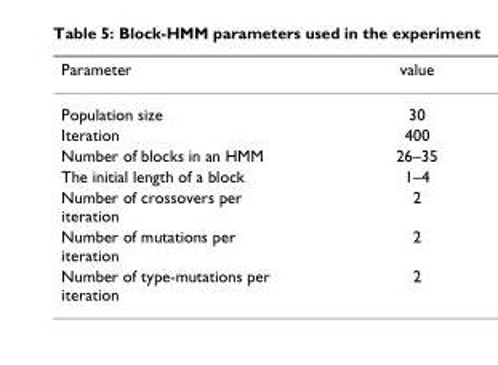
<table><thead><tr><td>Parameter</td><td>value</td></tr></thead><tbody><tr><td>Population size</td><td>30</td></tr><tr><td>Iteration</td><td>400</td></tr><tr><td>Number of blocks in an HMM</td><td>26–35</td></tr><tr><td>The initial length of a block</td><td>1–4</td></tr><tr><td>Number of crossovers per iteration</td><td>2</td></tr><tr><td>Number of mutations per iteration</td><td>2</td></tr><tr><td>Number of type-mutations per iteration</td><td>2</td></tr></tbody></table>